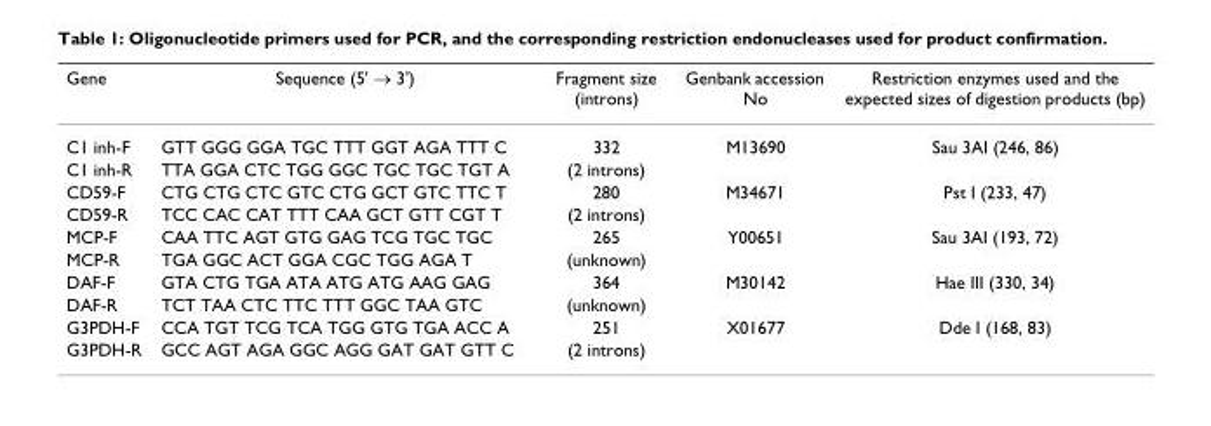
<table><thead><tr><td>Gene</td><td>Sequence (5&#x27; → 3&#x27;)</td><td>Fragment size (introns)</td><td>Genbank accession No</td><td>Restriction enzymes used and the expected sizes of digestion products (bp)</td></tr></thead><tbody><tr><td>C1 inh-F</td><td>GTT GGG GGA TGC TTT GGT AGA TTT C</td><td>332</td><td>M13690</td><td>Sau 3AI (246, 86)</td></tr><tr><td>C1 inh-R</td><td>TTA GGA CTC TGG GGC TGC TGC TGT A</td><td>(2 introns)</td><td></td><td></td></tr><tr><td>CD59-F</td><td>CTG CTG CTC GTC CTG GCT GTC TTC T</td><td>280</td><td>M34671</td><td>Pst I (233, 47)</td></tr><tr><td>CD59-R</td><td>TCC CAC CAT TTT CAA GCT GTT CGT T</td><td>(2 introns)</td><td></td><td></td></tr><tr><td>MCP-F</td><td>CAA TTC AGT GTG GAG TCG TGC TGC</td><td>265</td><td>Y00651</td><td>Sau 3AI (193, 72)</td></tr><tr><td>MCP-R</td><td>TGA GGC ACT GGA CGC TGG AGA T</td><td>(unknown)</td><td></td><td></td></tr><tr><td>DAF-F</td><td>GTA CTG TGA ATA ATG ATG AAG GAG</td><td>364</td><td>M30142</td><td>Hae III (330, 34)</td></tr><tr><td>DAF-R</td><td>TCT TAA CTC TTC TTT GGC TAA GTC</td><td>(unknown)</td><td></td><td></td></tr><tr><td>G3PDH-F</td><td>CCA TGT TCG TCA TGG GTG TGA ACC A</td><td>251</td><td>X01677</td><td>Dde I (168, 83)</td></tr><tr><td>G3PDH-R</td><td>GCC AGT AGA GGC AGG GAT GAT GTT C</td><td>(2 introns)</td><td></td><td></td></tr></tbody></table>